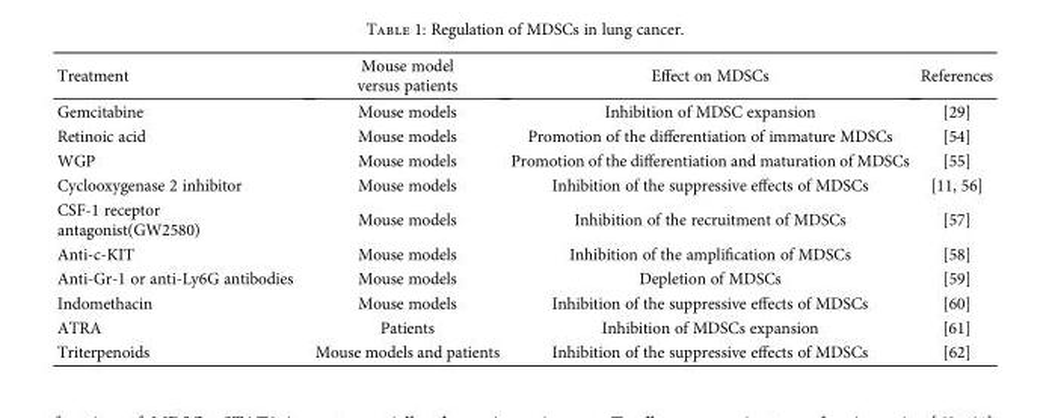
<table><thead><tr><td>Treatment</td><td>Mouse model versus patients</td><td>Effect on MDSCs</td><td>References</td></tr></thead><tbody><tr><td>Gemcitabine</td><td>Mouse models</td><td>Inhibition of MDSC expansion</td><td>[29]</td></tr><tr><td>Retinoic acid</td><td>Mouse models</td><td>Promotion of the differentiation of immature MDSCs</td><td>[54]</td></tr><tr><td>WGP</td><td>Mouse models</td><td>Promotion of the differentiation and maturation of MDSCs</td><td>[55]</td></tr><tr><td>Cyclooxygenase 2 inhibitor</td><td>Mouse models</td><td>Inhibition of the suppressive effects of MDSCs</td><td>[11, 56]</td></tr><tr><td>CSF-1 receptor antagonist(GW2580)</td><td>Mouse models</td><td>Inhibition of the recruitment of MDSCs</td><td>[57]</td></tr><tr><td>Anti-c-KIT</td><td>Mouse models</td><td>Inhibition of the amplification of MDSCs</td><td>[58]</td></tr><tr><td>Anti-Gr-1 or anti-Ly6G antibodies</td><td>Mouse models</td><td>Depletion of MDSCs</td><td>[59]</td></tr><tr><td>Indomethacin</td><td>Mouse models</td><td>Inhibition of the suppressive effects of MDSCs</td><td>[60]</td></tr><tr><td>ATRA</td><td>Patients</td><td>Inhibition of MDSCs expansion</td><td>[61]</td></tr><tr><td>Triterpenoids</td><td>Mouse models and patients</td><td>Inhibition of the suppressive effects of MDSCs</td><td>[62]</td></tr></tbody></table>